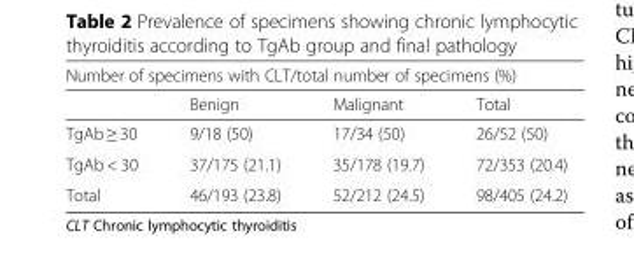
<table><thead><tr><td colspan="4">Number of specimens with CLT/total number of specimens (%)</td></tr><tr><td></td><td>Benign</td><td>Malignant</td><td>Total</td></tr></thead><tbody><tr><td>TgAb ≥ 30</td><td>9/18 (50)</td><td>17/34 (50)</td><td>26/52 (50)</td></tr><tr><td>TgAb &lt; 30</td><td>37/175 (21.1)</td><td>35/178 (19.7)</td><td>72/353 (20.4)</td></tr><tr><td>Total</td><td>46/193 (23.8)</td><td>52/212 (24.5)</td><td>98/405 (24.2)</td></tr></tbody></table>